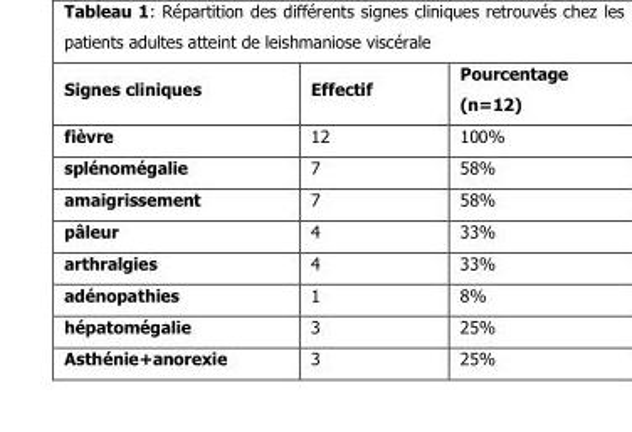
<table><thead><tr><td>Signes cliniques</td><td>Effectif</td><td>Pourcentage (n=12)</td></tr></thead><tbody><tr><td>fièvre</td><td>12</td><td>100%</td></tr><tr><td>splénomégalie</td><td>7</td><td>58%</td></tr><tr><td>amaigrissement</td><td>7</td><td>58%</td></tr><tr><td>pâleur</td><td>4</td><td>33%</td></tr><tr><td>arthralgies</td><td>4</td><td>33%</td></tr><tr><td>adénopathies</td><td>1</td><td>8%</td></tr><tr><td>hépatomégalie</td><td>3</td><td>25%</td></tr><tr><td>Asthénie+anorexie</td><td>3</td><td>25%</td></tr></tbody></table>